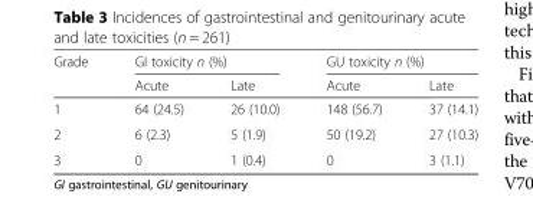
<table><thead><tr><td rowspan="2">Grade</td><td colspan="2">GI toxicity n (%)</td><td colspan="2">GU toxicity n (%)</td></tr><tr><td>Acute</td><td>Late</td><td>Acute</td><td>Late</td></tr></thead><tbody><tr><td>1</td><td>64 (24.5)</td><td>26 (10.0)</td><td>148 (56.7)</td><td>37 (14.1)</td></tr><tr><td>2</td><td>6 (2.3)</td><td>5 (1.9)</td><td>50 (19.2)</td><td>27 (10.3)</td></tr><tr><td>3</td><td>0</td><td>1 (0.4)</td><td>0</td><td>3 (1.1)</td></tr></tbody></table>